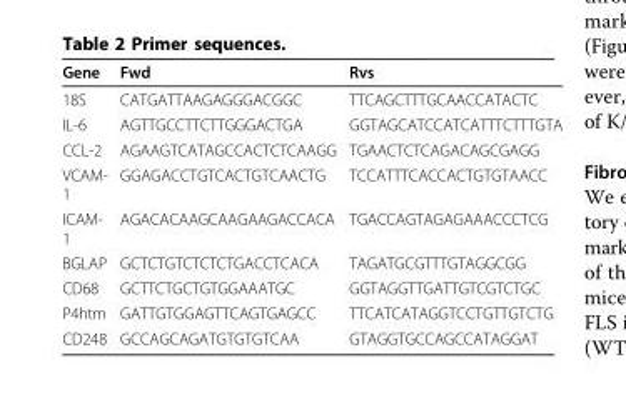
<table><thead><tr><td>Gene</td><td>Fwd</td><td>Rvs</td></tr></thead><tbody><tr><td>18S</td><td>CATGATTAAGAGGGACGGC</td><td>TTCAGCTTTGCAACCATACTC</td></tr><tr><td>IL-6</td><td>AGTTGCCTTCTTGGGACTGA</td><td>GGTAGCATCCATCATTTCTTTGTA</td></tr><tr><td>CCL-2</td><td>AGAAGTCATAGCCACTCTCAAGG</td><td>TGAACTCTCAGACAGCGAGG</td></tr><tr><td>VCAM- 1</td><td>GGAGACCTGTCACTGTCAACTG</td><td>TCCATTTCACCACTGTGTAACC</td></tr><tr><td>ICAM- 1</td><td>AGACACAAGCAAGAAGACCACA</td><td>TGACCAGTAGAGAAACCCTCG</td></tr><tr><td>BGLAP</td><td>GCTCTGTCTCTCTGACCTCACA</td><td>TAGATGCGTTTGTAGGCGG</td></tr><tr><td>CD68</td><td>GCTTCTGCTGTGGAAATGC</td><td>GGTAGGTTGATTGTCGTCTGC</td></tr><tr><td>P4htm</td><td>GATTGTGGAGTTCAGTGAGCC</td><td>TTCATCATAGGTCCTGTTGTCTG</td></tr><tr><td>CD248</td><td>GCCAGCAGATGTGTGTCAA</td><td>GTAGGTGCCAGCCATAGGAT</td></tr></tbody></table>